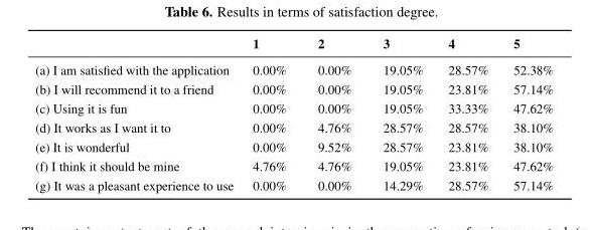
<table><thead><tr><td></td><td>1</td><td>2</td><td>3</td><td>4</td><td>5</td></tr></thead><tbody><tr><td>(a) I am satisfied with the application</td><td>0.00%</td><td>0.00%</td><td>19.05%</td><td>28.57%</td><td>52.38%</td></tr><tr><td>(b) I will recommend it to a friend</td><td>0.00%</td><td>0.00%</td><td>19.05%</td><td>23.81%</td><td>57.14%</td></tr><tr><td>(c) Using it is fun</td><td>0.00%</td><td>0.00%</td><td>19.05%</td><td>33.33%</td><td>47.62%</td></tr><tr><td>(d) It works as I want it to</td><td>0.00%</td><td>4.76%</td><td>28.57%</td><td>28.57%</td><td>38.10%</td></tr><tr><td>(e) It is wonderful</td><td>0.00%</td><td>9.52%</td><td>28.57%</td><td>23.81%</td><td>38.10%</td></tr><tr><td>(f) I think it should be mine</td><td>4.76%</td><td>4.76%</td><td>19.05%</td><td>23.81%</td><td>47.62%</td></tr><tr><td>(g) It was a pleasant experience to use</td><td>0.00%</td><td>0.00%</td><td>14.29%</td><td>28.57%</td><td>57.14%</td></tr></tbody></table>